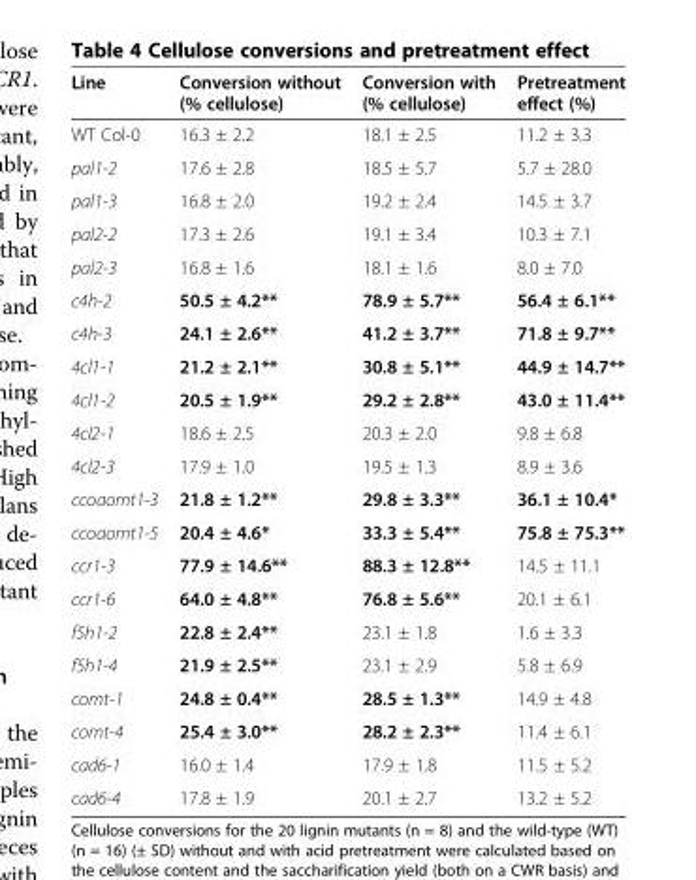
<table><thead><tr><td>Line</td><td>Conversion without (% cellulose)</td><td>Conversion with (% cellulose)</td><td>Pretreatment effect (%)</td></tr></thead><tbody><tr><td>WT Col-0</td><td>16.3 ± 2.2</td><td>18.1 ± 2.5</td><td>11.2 ± 3.3</td></tr><tr><td>pal1-2</td><td>17.6 ± 2.8</td><td>18.5 ± 5.7</td><td>5.7 ± 28.0</td></tr><tr><td>pal1-3</td><td>16.8 ± 2.0</td><td>19.2 ± 2.4</td><td>14.5 ± 3.7</td></tr><tr><td>pal2-2</td><td>17.3 ± 2.6</td><td>19.1 ± 3.4</td><td>10.3 ± 7.1</td></tr><tr><td>pal2-3</td><td>16.8 ± 1.6</td><td>18.1 ± 1.6</td><td>8.0 ± 7.0</td></tr><tr><td>c4h-2</td><td>50.5 ± 4.2**</td><td>78.9 ± 5.7**</td><td>56.4 ± 6.1**</td></tr><tr><td>c4h-3</td><td>24.1 ± 2.6**</td><td>41.2 ± 3.7**</td><td>71.8 ± 9.7**</td></tr><tr><td>4cl1-1</td><td>21.2 ± 2.1**</td><td>30.8 ± 5.1**</td><td>44.9 ± 14.7**</td></tr><tr><td>4cl1-2</td><td>20.5 ± 1.9**</td><td>29.2 ± 2.8**</td><td>43.0 ± 11.4**</td></tr><tr><td>4cl2-1</td><td>18.6 ± 2.5</td><td>20.3 ± 2.0</td><td>9.8 ± 6.8</td></tr><tr><td>4cl2-3</td><td>17.9 ± 1.0</td><td>19.5 ± 1.3</td><td>8.9 ± 3.6</td></tr><tr><td>ccoaomt1-3</td><td>21.8 ± 1.2**</td><td>29.8 ± 3.3**</td><td>36.1 ± 10.4*</td></tr><tr><td>ccoaomt1-5</td><td>20.4 ± 4.6*</td><td>33.3 ± 5.4**</td><td>75.8 ± 75.3**</td></tr><tr><td>ccr1-3</td><td>77.9 ± 14.6**</td><td>88.3 ± 12.8**</td><td>14.5 ± 11.1</td></tr><tr><td>ccr1-6</td><td>64.0 ± 4.8**</td><td>76.8 ± 5.6**</td><td>20.1 ± 6.1</td></tr><tr><td>f5h1-2</td><td>22.8 ± 2.4**</td><td>23.1 ± 1.8</td><td>1.6 ± 3.3</td></tr><tr><td>f5h1-4</td><td>21.9 ± 2.5**</td><td>23.1 ± 2.9</td><td>5.8 ± 6.9</td></tr><tr><td>comt-1</td><td>24.8 ± 0.4**</td><td>28.5 ± 1.3**</td><td>14.9 ± 4.8</td></tr><tr><td>comt-4</td><td>25.4 ± 3.0**</td><td>28.2 ± 2.3**</td><td>11.4 ± 6.1</td></tr><tr><td>cad6-1</td><td>16.0 ± 1.4</td><td>17.9 ± 1.8</td><td>11.5 ± 5.2</td></tr><tr><td>cad6-4</td><td>17.8 ± 1.9</td><td>20.1 ± 2.7</td><td>13.2 ± 5.2</td></tr></tbody></table>